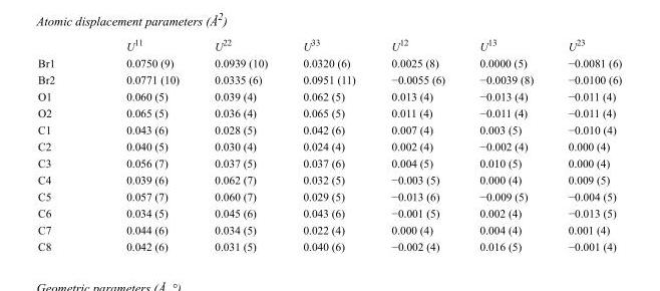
<table><thead><tr><td></td><td>U<sup>11</sup></td><td>U<sup>22</sup></td><td>U<sup>33</sup></td><td>U<sup>12</sup></td><td>U<sup>13</sup></td><td>U<sup>23</sup></td></tr></thead><tbody><tr><td>Br1</td><td>0.0750 (9)</td><td>0.0939 (10)</td><td>0.0320 (6)</td><td>0.0025 (8)</td><td>0.0000 (5)</td><td>−0.0081 (6)</td></tr><tr><td>Br2</td><td>0.0771 (10)</td><td>0.0335 (6)</td><td>0.0951 (11)</td><td>−0.0055 (6)</td><td>−0.0039 (8)</td><td>−0.0100 (6)</td></tr><tr><td>O1</td><td>0.060 (5)</td><td>0.039 (4)</td><td>0.062 (5)</td><td>0.013 (4)</td><td>−0.013 (4)</td><td>−0.011 (4)</td></tr><tr><td>O2</td><td>0.065 (5)</td><td>0.036 (4)</td><td>0.065 (5)</td><td>0.011 (4)</td><td>−0.011 (4)</td><td>−0.011 (4)</td></tr><tr><td>C1</td><td>0.043 (6)</td><td>0.028 (5)</td><td>0.042 (6)</td><td>0.007 (4)</td><td>0.003 (5)</td><td>−0.010 (4)</td></tr><tr><td>C2</td><td>0.040 (5)</td><td>0.030 (4)</td><td>0.024 (4)</td><td>0.002 (4)</td><td>−0.002 (4)</td><td>0.000 (4)</td></tr><tr><td>C3</td><td>0.056 (7)</td><td>0.037 (5)</td><td>0.037 (6)</td><td>0.004 (5)</td><td>0.010 (5)</td><td>0.000 (4)</td></tr><tr><td>C4</td><td>0.039 (6)</td><td>0.062 (7)</td><td>0.032 (5)</td><td>−0.003 (5)</td><td>0.000 (4)</td><td>0.009 (5)</td></tr><tr><td>C5</td><td>0.057 (7)</td><td>0.060 (7)</td><td>0.029 (5)</td><td>−0.013 (6)</td><td>−0.009 (5)</td><td>−0.004 (5)</td></tr><tr><td>C6</td><td>0.034 (5)</td><td>0.045 (6)</td><td>0.043 (6)</td><td>−0.001 (5)</td><td>0.002 (4)</td><td>−0.013 (5)</td></tr><tr><td>C7</td><td>0.044 (6)</td><td>0.034 (5)</td><td>0.022 (4)</td><td>0.000 (4)</td><td>0.004 (4)</td><td>0.001 (4)</td></tr><tr><td>C8</td><td>0.042 (6)</td><td>0.031 (5)</td><td>0.040 (6)</td><td>−0.002 (4)</td><td>0.016 (5)</td><td>−0.001 (4)</td></tr></tbody></table>